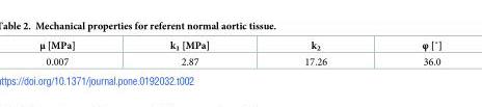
<table><thead><tr><td>μ [MPa]</td><td>k<sub>1</sub> [MPa]</td><td>k<sub>2</sub></td><td>φ [˚]</td></tr></thead><tbody><tr><td>0.007</td><td>2.87</td><td>17.26</td><td>36.0</td></tr></tbody></table>